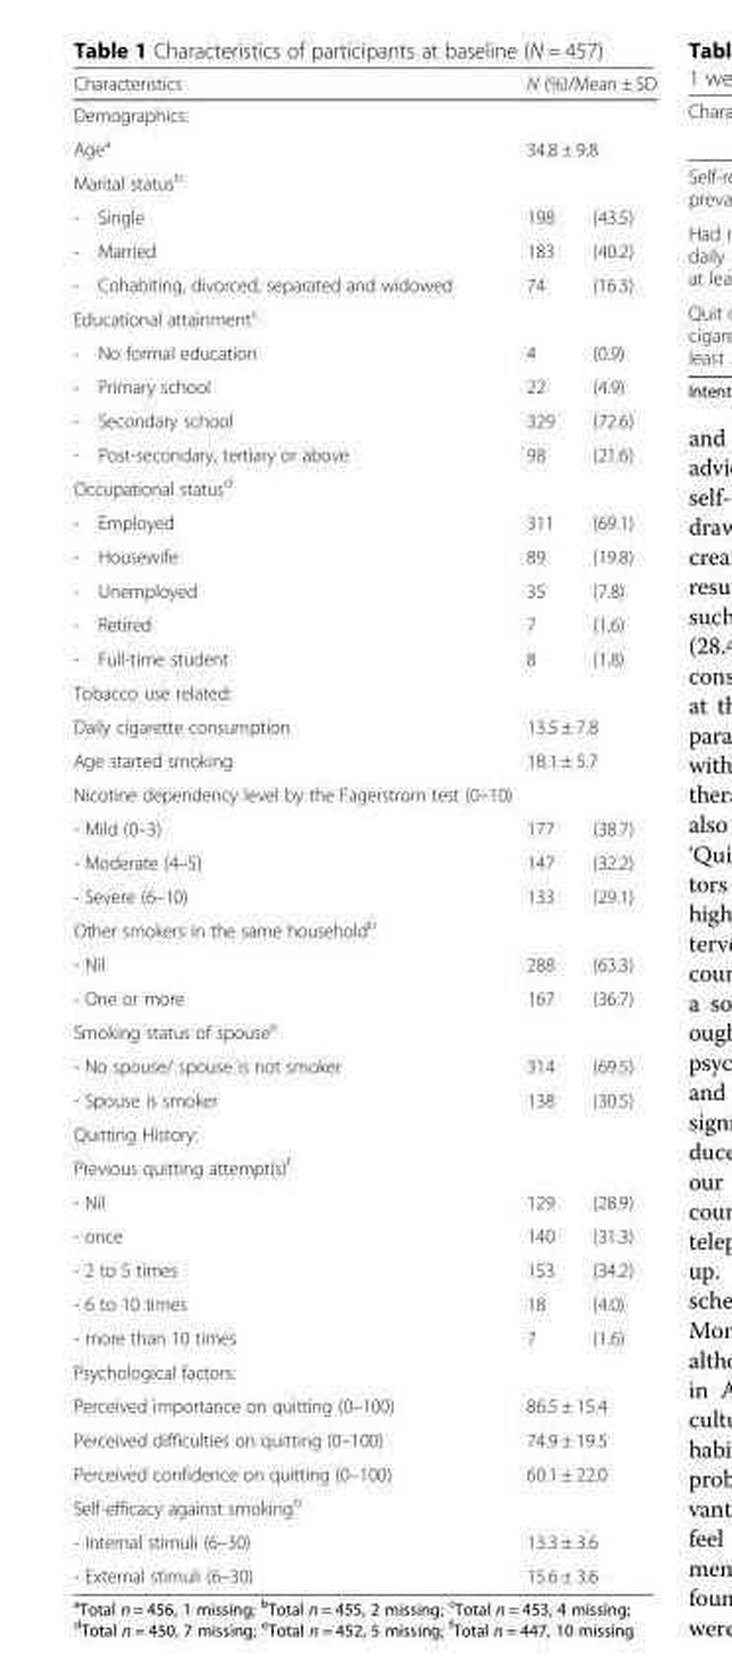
<table><thead><tr><td>Characteristics</td><td colspan="2">N (%)/Mean ± SD</td></tr><tr><td colspan="3">Demographics:</td></tr><tr><td rowspan="2">Age<sup>a</sup> Marital status<sup>b</sup></td><td colspan="2">34.8 ± 9.8</td></tr><tr><td></td><td></td></tr></thead><tbody><tr><td>- Single</td><td>198</td><td>(43.5)</td></tr><tr><td>- Married</td><td>183</td><td>(40.2)</td></tr><tr><td>- Cohabiting, divorced, separated and widowed</td><td>74</td><td>(16.3)</td></tr><tr><td colspan="3">Educational attainment<sup>c</sup></td></tr><tr><td>- No formal education</td><td>4</td><td>(0.9)</td></tr><tr><td>- Primary school</td><td>22</td><td>(4.9)</td></tr><tr><td>- Secondary school</td><td>329</td><td>(72.6)</td></tr><tr><td>- Post-secondary, tertiary or above</td><td>98</td><td>(21.6)</td></tr><tr><td colspan="3">Occupational status<sup>d</sup></td></tr><tr><td>- Employed</td><td>311</td><td>(69.1)</td></tr><tr><td>- Housewife</td><td>89</td><td>(19.8)</td></tr><tr><td>- Unemployed</td><td>35</td><td>(7.8)</td></tr><tr><td>- Retired</td><td>7</td><td>(1.6)</td></tr><tr><td>- Full-time student</td><td>8</td><td>(1.8)</td></tr><tr><td colspan="3">Tobacco use related:</td></tr><tr><td>Daily cigarette consumption</td><td colspan="2">13.5 ± 7.8</td></tr><tr><td>Age started smoking</td><td colspan="2">18.1 ± 5.7</td></tr><tr><td colspan="3">Nicotine dependency level by the Fagerstrom test (0–10)</td></tr><tr><td>- Mild (0–3)</td><td>177</td><td>(38.7)</td></tr><tr><td>- Moderate (4–5)</td><td>147</td><td>(32.2)</td></tr><tr><td>- Severe (6–10)</td><td>133</td><td>(29.1)</td></tr><tr><td colspan="3">Other smokers in the same household<sup>b</sup></td></tr><tr><td>- Nil</td><td>288</td><td>(63.3)</td></tr><tr><td>- One or more</td><td>167</td><td>(36.7)</td></tr><tr><td colspan="3">Smoking status of spouse<sup>e</sup></td></tr><tr><td>- No spouse/ spouse is not smoker</td><td>314</td><td>(69.5)</td></tr><tr><td>- Spouse is smoker</td><td>138</td><td>(30.5)</td></tr><tr><td colspan="3">Quitting History:</td></tr><tr><td colspan="3">Previous quitting attempt(s)<sup>f</sup></td></tr><tr><td>- Nil</td><td>129</td><td>(28.9)</td></tr><tr><td>- once</td><td>140</td><td>(31.3)</td></tr><tr><td>- 2 to 5 times</td><td>153</td><td>(34.2)</td></tr><tr><td>- 6 to 10 times</td><td>18</td><td>(4.0)</td></tr><tr><td>- more than 10 times</td><td>7</td><td>(1.6)</td></tr><tr><td colspan="3">Psychological factors:</td></tr><tr><td>Perceived importance on quitting (0–100)</td><td colspan="2">86.5 ± 15.4</td></tr><tr><td>Perceived difficulties on quitting (0–100)</td><td colspan="2">74.9 ± 19.5</td></tr><tr><td>Perceived confidence on quitting (0–100)</td><td colspan="2">60.1 ± 22.0</td></tr><tr><td colspan="3">Self-efficacy against smoking<sup>b</sup></td></tr><tr><td>- Internal stimuli (6–30)</td><td colspan="2">13.3 ± 3.6</td></tr><tr><td>- External stimuli (6–30)</td><td colspan="2">15.6 ± 3.6</td></tr></tbody></table>